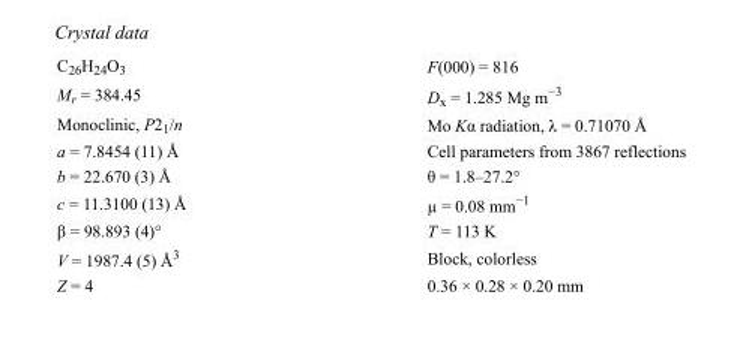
<table><tbody><tr><td>C<sub>26</sub>H<sub>24</sub>O<sub>3</sub></td><td>F(000) = 816</td></tr><tr><td>M<sub>r</sub> = 384.45</td><td>D<sub>x</sub> = 1.285 Mg m<sup>−3</sup></td></tr><tr><td>Monoclinic, P2<sub>1</sub>/n</td><td>Mo Kα radiation, λ = 0.71070 Å</td></tr><tr><td>a = 7.8454 (11) Å</td><td>Cell parameters from 3867 reflections</td></tr><tr><td>b = 22.670 (3) Å</td><td>θ = 1.8–27.2°</td></tr><tr><td>c = 11.3100 (13) Å</td><td>µ = 0.08 mm<sup>−1</sup></td></tr><tr><td>β = 98.893 (4)°</td><td>T = 113 K</td></tr><tr><td>V = 1987.4 (5) Å<sup>3</sup></td><td>Block, colorless</td></tr><tr><td>Z = 4</td><td>0.36 × 0.28 × 0.20 mm</td></tr></tbody></table>